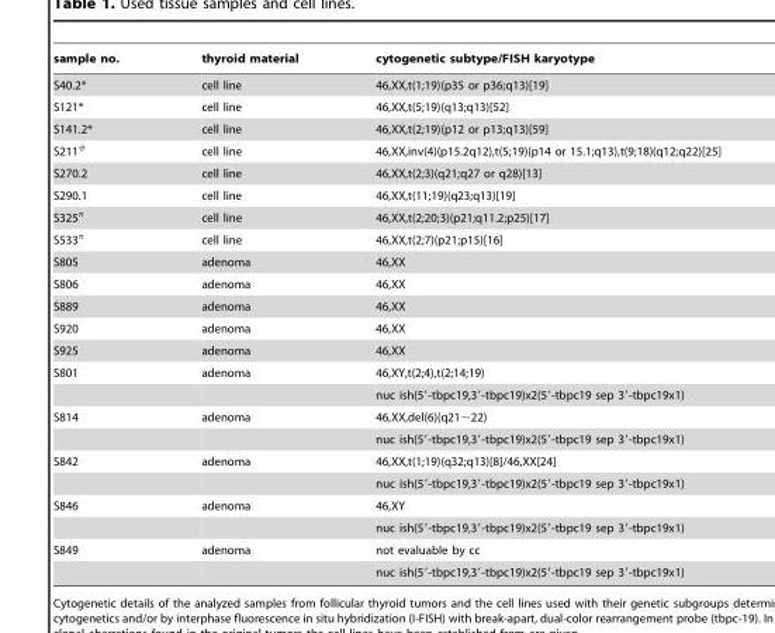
<table><thead><tr><td>sample no.</td><td>thyroid material</td><td>cytogenetic subtype/FISH karyotype</td></tr></thead><tbody><tr><td>S40.2*</td><td>cell line</td><td>46,XX,t(1;19)(p35 or p36;q13)[19]</td></tr><tr><td>S121*</td><td>cell line</td><td>46,XX,t(5;19)(q13;q13)[52]</td></tr><tr><td>S141.2*</td><td>cell line</td><td>46,XX,t(2;19)(p12 or p13;q13)[59]</td></tr><tr><td>S211<sup>#</sup></td><td>cell line</td><td>46,XX,inv(4)(p15.2q12),t(5;19)(p14 or 15.1;q13),t(9;18)(q12;q22)[25]</td></tr><tr><td>S270.2</td><td>cell line</td><td>46,XX,t(2;3)(q21;q27 or q28)[13]</td></tr><tr><td>S290.1</td><td>cell line</td><td>46,XX,t(11;19)(q23;q13)[19]</td></tr><tr><td>S325<sup>π</sup></td><td>cell line</td><td>46,XX,t(2;20;3)(p21;q11.2;p25)[17]</td></tr><tr><td>S533<sup>π</sup></td><td>cell line</td><td>46,XX,t(2;7)(p21;p15)[16]</td></tr><tr><td>S805</td><td>adenoma</td><td>46,XX</td></tr><tr><td>S806</td><td>adenoma</td><td>46,XX</td></tr><tr><td>S889</td><td>adenoma</td><td>46,XX</td></tr><tr><td>S920</td><td>adenoma</td><td>46,XX</td></tr><tr><td>S925</td><td>adenoma</td><td>46,XX</td></tr><tr><td rowspan="2">S801</td><td>adenoma</td><td>46,XY,t(2;4),t(2;14;19)</td></tr><tr><td></td><td>nuc ish(5′-tbpc19,3′-tbpc19)x2(5′-tbpc19 sep 3′-tbpc19x1)</td></tr><tr><td rowspan="2">S814</td><td>adenoma</td><td>46,XX,del(6)(q21∼22)</td></tr><tr><td></td><td>nuc ish(5′-tbpc19,3′-tbpc19)x2(5′-tbpc19 sep 3′-tbpc19x1)</td></tr><tr><td rowspan="2">S842</td><td>adenoma</td><td>46,XX,t(1;19)(q32;q13)[8]/46,XX[24]</td></tr><tr><td></td><td>nuc ish(5′-tbpc19,3′-tbpc19)x2(5′-tbpc19 sep 3′-tbpc19x1)</td></tr><tr><td rowspan="2">S846</td><td>adenoma</td><td>46,XY</td></tr><tr><td></td><td>nuc ish(5′-tbpc19,3′-tbpc19)x2(5′-tbpc19 sep 3′-tbpc19x1)</td></tr><tr><td rowspan="2">S849</td><td>adenoma</td><td>not evaluable by cc</td></tr><tr><td></td><td>nuc ish(5′-tbpc19,3′-tbpc19)x2(5′-tbpc19 sep 3′-tbpc19x1)</td></tr></tbody></table>